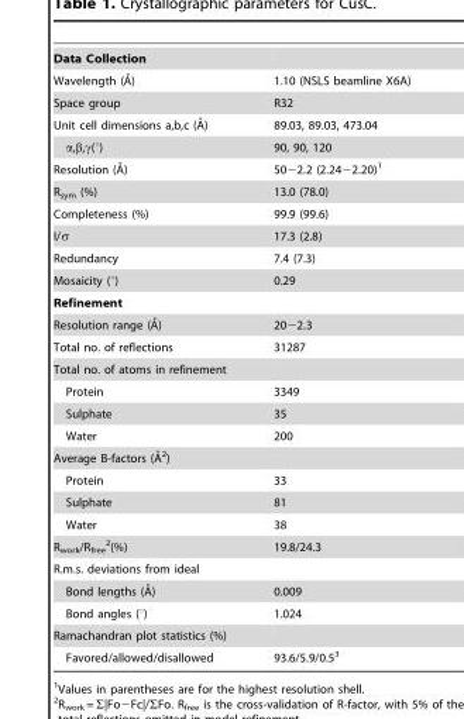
<table><tbody><tr><td colspan="2">Data Collection</td></tr><tr><td>Wavelength (A˚)</td><td>1.10 (NSLS beamline X6A)</td></tr><tr><td>Space group</td><td>R32</td></tr><tr><td>Unit cell dimensions a,b,c (A˚)</td><td>89.03, 89.03, 473.04</td></tr><tr><td>α,β,γ(°)</td><td>90, 90, 120</td></tr><tr><td>Resolution (A˚)</td><td>50−2.2 (2.24−2.20)<sup>1</sup></td></tr><tr><td>R<sub>sym</sub> (%)</td><td>13.0 (78.0)</td></tr><tr><td>Completeness (%)</td><td>99.9 (99.6)</td></tr><tr><td>I/σ</td><td>17.3 (2.8)</td></tr><tr><td>Redundancy</td><td>7.4 (7.3)</td></tr><tr><td>Mosaicity (°)</td><td>0.29</td></tr><tr><td colspan="2">Refinement</td></tr><tr><td>Resolution range (A˚)</td><td>20−2.3</td></tr><tr><td>Total no. of reflections</td><td>31287</td></tr><tr><td colspan="2">Total no. of atoms in refinement</td></tr><tr><td>Protein</td><td>3349</td></tr><tr><td>Sulphate</td><td>35</td></tr><tr><td>Water</td><td>200</td></tr><tr><td colspan="2">Average B-factors (A˚ 2)</td></tr><tr><td>Protein</td><td>33</td></tr><tr><td>Sulphate</td><td>81</td></tr><tr><td>Water</td><td>38</td></tr><tr><td>R<sub>work</sub>/R<sub>free</sub> 2(%)</td><td>19.8/24.3</td></tr><tr><td colspan="2">R.m.s. deviations from ideal</td></tr><tr><td>Bond lengths (A˚)</td><td>0.009</td></tr><tr><td>Bond angles (°)</td><td>1.024</td></tr><tr><td colspan="2">Ramachandran plot statistics (%)</td></tr><tr><td>Favored/allowed/disallowed</td><td>93.6/5.9/0.5<sup>3</sup></td></tr></tbody></table>